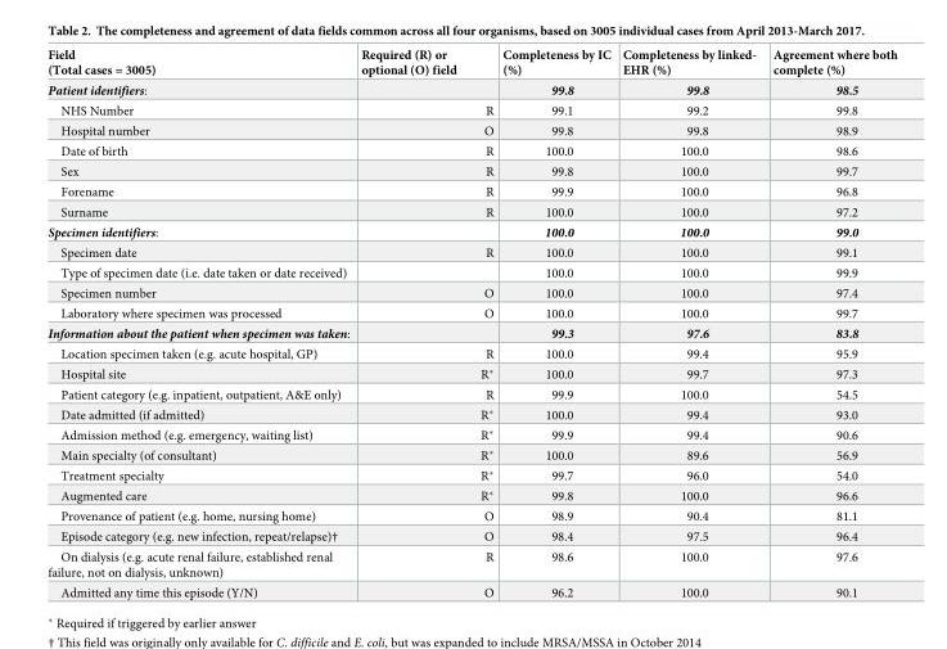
<table><thead><tr><td>Field (Total cases = 3005)</td><td>Required (R) or optional (O) field</td><td>Completeness by IC (%)</td><td>Completeness by linked- EHR (%)</td><td>Agreement where both complete (%)</td></tr></thead><tbody><tr><td>Patient identifiers:</td><td></td><td>99.8</td><td>99.8</td><td>98.5</td></tr><tr><td>NHS Number</td><td>R</td><td>99.1</td><td>99.2</td><td>99.8</td></tr><tr><td>Hospital number</td><td>O</td><td>99.8</td><td>99.8</td><td>98.9</td></tr><tr><td>Date of birth</td><td>R</td><td>100.0</td><td>100.0</td><td>98.6</td></tr><tr><td>Sex</td><td>R</td><td>99.8</td><td>100.0</td><td>99.7</td></tr><tr><td>Forename</td><td>R</td><td>99.9</td><td>100.0</td><td>96.8</td></tr><tr><td>Surname</td><td>R</td><td>100.0</td><td>100.0</td><td>97.2</td></tr><tr><td>Specimen identifiers:</td><td></td><td>100.0</td><td>100.0</td><td>99.0</td></tr><tr><td>Specimen date</td><td>R</td><td>100.0</td><td>100.0</td><td>99.1</td></tr><tr><td>Type of specimen date (i.e. date taken or date received)</td><td></td><td>100.0</td><td>100.0</td><td>99.9</td></tr><tr><td>Specimen number</td><td>O</td><td>100.0</td><td>100.0</td><td>97.4</td></tr><tr><td>Laboratory where specimen was processed</td><td>O</td><td>100.0</td><td>100.0</td><td>99.7</td></tr><tr><td>Information about the patient when specimen was taken:</td><td></td><td>99.3</td><td>97.6</td><td>83.8</td></tr><tr><td>Location specimen taken (e.g. acute hospital, GP)</td><td>R</td><td>100.0</td><td>99.4</td><td>95.9</td></tr><tr><td>Hospital site</td><td>R*</td><td>100.0</td><td>99.7</td><td>97.3</td></tr><tr><td>Patient category (e.g. inpatient, outpatient, A&amp;E only)</td><td>R</td><td>99.9</td><td>100.0</td><td>54.5</td></tr><tr><td>Date admitted (if admitted)</td><td>R*</td><td>100.0</td><td>99.4</td><td>93.0</td></tr><tr><td>Admission method (e.g. emergency, waiting list)</td><td>R*</td><td>99.9</td><td>99.4</td><td>90.6</td></tr><tr><td>Main specialty (of consultant)</td><td>R*</td><td>100.0</td><td>89.6</td><td>56.9</td></tr><tr><td>Treatment specialty</td><td>R*</td><td>99.7</td><td>96.0</td><td>54.0</td></tr><tr><td>Augmented care</td><td>R*</td><td>99.8</td><td>100.0</td><td>96.6</td></tr><tr><td>Provenance of patient (e.g. home, nursing home)</td><td>O</td><td>98.9</td><td>90.4</td><td>81.1</td></tr><tr><td>Episode category (e.g. new infection, repeat/relapse)†</td><td>O</td><td>98.4</td><td>97.5</td><td>96.4</td></tr><tr><td>On dialysis (e.g. acute renal failure, established renal failure, not on dialysis, unknown)</td><td>R</td><td>98.6</td><td>100.0</td><td>97.6</td></tr><tr><td>Admitted any time this episode (Y/N)</td><td>O</td><td>96.2</td><td>100.0</td><td>90.1</td></tr></tbody></table>